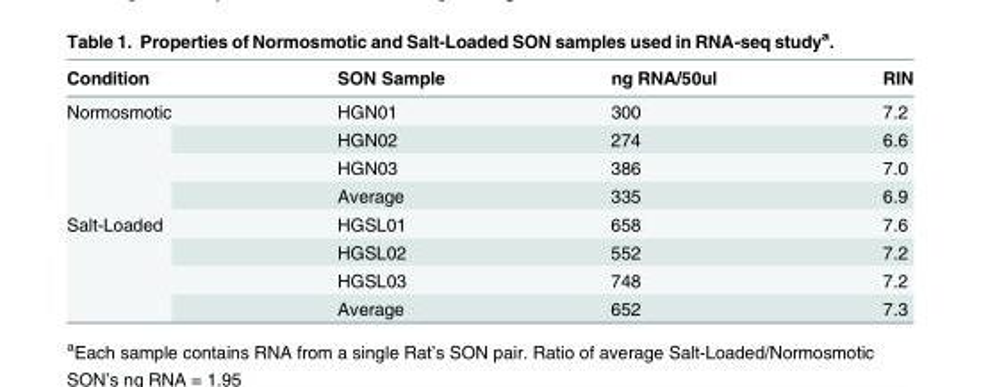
<table><thead><tr><td>Condition</td><td>SON Sample</td><td>ng RNA/50ul</td><td>RIN</td></tr></thead><tbody><tr><td rowspan="4">Normosmotic</td><td>HGN01</td><td>300</td><td>7.2</td></tr><tr><td>HGN02</td><td>274</td><td>6.6</td></tr><tr><td>HGN03</td><td>386</td><td>7.0</td></tr><tr><td>Average</td><td>335</td><td>6.9</td></tr><tr><td rowspan="4">Salt-Loaded</td><td>HGSL01</td><td>658</td><td>7.6</td></tr><tr><td>HGSL02</td><td>552</td><td>7.2</td></tr><tr><td>HGSL03</td><td>748</td><td>7.2</td></tr><tr><td>Average</td><td>652</td><td>7.3</td></tr></tbody></table>